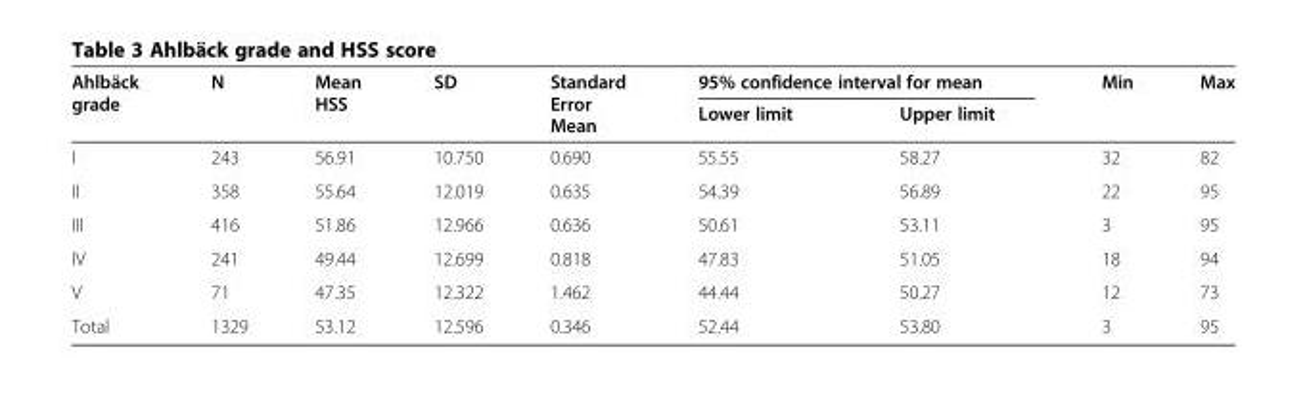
<table><thead><tr><td rowspan="2">Ahlbäck grade</td><td rowspan="2">N</td><td rowspan="2">Mean HSS</td><td rowspan="2">SD</td><td rowspan="2">Standard Error Mean</td><td colspan="2">95% confidence interval for mean</td><td rowspan="2">Min</td><td rowspan="2">Max</td></tr><tr><td>Lower limit</td><td>Upper limit</td></tr></thead><tbody><tr><td>I</td><td>243</td><td>56.91</td><td>10.750</td><td>0.690</td><td>55.55</td><td>58.27</td><td>32</td><td>82</td></tr><tr><td>II</td><td>358</td><td>55.64</td><td>12.019</td><td>0.635</td><td>54.39</td><td>56.89</td><td>22</td><td>95</td></tr><tr><td>III</td><td>416</td><td>51.86</td><td>12.966</td><td>0.636</td><td>50.61</td><td>53.11</td><td>3</td><td>95</td></tr><tr><td>IV</td><td>241</td><td>49.44</td><td>12.699</td><td>0.818</td><td>47.83</td><td>51.05</td><td>18</td><td>94</td></tr><tr><td>V</td><td>71</td><td>47.35</td><td>12.322</td><td>1.462</td><td>44.44</td><td>50.27</td><td>12</td><td>73</td></tr><tr><td>Total</td><td>1329</td><td>53.12</td><td>12.596</td><td>0.346</td><td>52.44</td><td>53.80</td><td>3</td><td>95</td></tr></tbody></table>